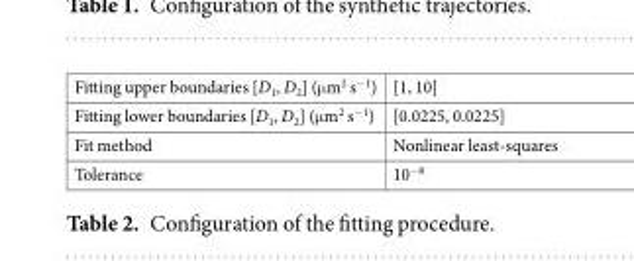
<table><tbody><tr><td>Fitting upper boundaries [D<sub>1</sub>, D<sub>2</sub>] (μm<sup>2</sup> s<sup>−1</sup>)</td><td>[1, 10]</td></tr><tr><td>Fitting lower boundaries [D<sub>1</sub>, D<sub>2</sub>] (μm<sup>2</sup> s<sup>−1</sup>)</td><td>[0.0225, 0.0225]</td></tr><tr><td>Fit method</td><td>Nonlinear least-squares</td></tr><tr><td>Tolerance</td><td>10<sup>−8</sup></td></tr></tbody></table>